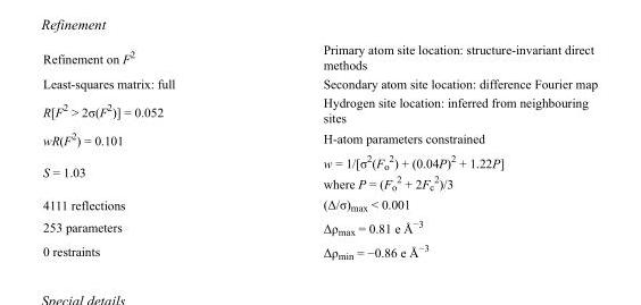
<table><tbody><tr><td>Refinement on F<sup>2</sup></td><td>Primary atom site location: structure-invariant direct methods</td></tr><tr><td>Least-squares matrix: full</td><td>Secondary atom site location: difference Fourier map</td></tr><tr><td>R[F<sup>2</sup> &gt; 2σ(F<sup>2</sup>)] = 0.052</td><td>Hydrogen site location: inferred from neighbouring sites</td></tr><tr><td>wR(F<sup>2</sup>) = 0.101</td><td>H-atom parameters constrained</td></tr><tr><td>S = 1.03</td><td>w = 1/[σ<sup>2</sup>(F<sub>o</sub> <sup>2</sup>) + (0.04P)<sup>2</sup> + 1.22P] where P = (F<sub>o</sub> <sup>2</sup> + 2F<sub>c</sub> <sup>2</sup>)/3</td></tr><tr><td>4111 reflections</td><td>(Δ/σ)<sub>max</sub> &lt; 0.001</td></tr><tr><td>253 parameters</td><td>Δρ<sub>max</sub> = 0.81 e Å<sup>−3</sup></td></tr><tr><td>0 restraints</td><td>Δρ<sub>min</sub> = −0.86 e Å<sup>−3</sup></td></tr></tbody></table>